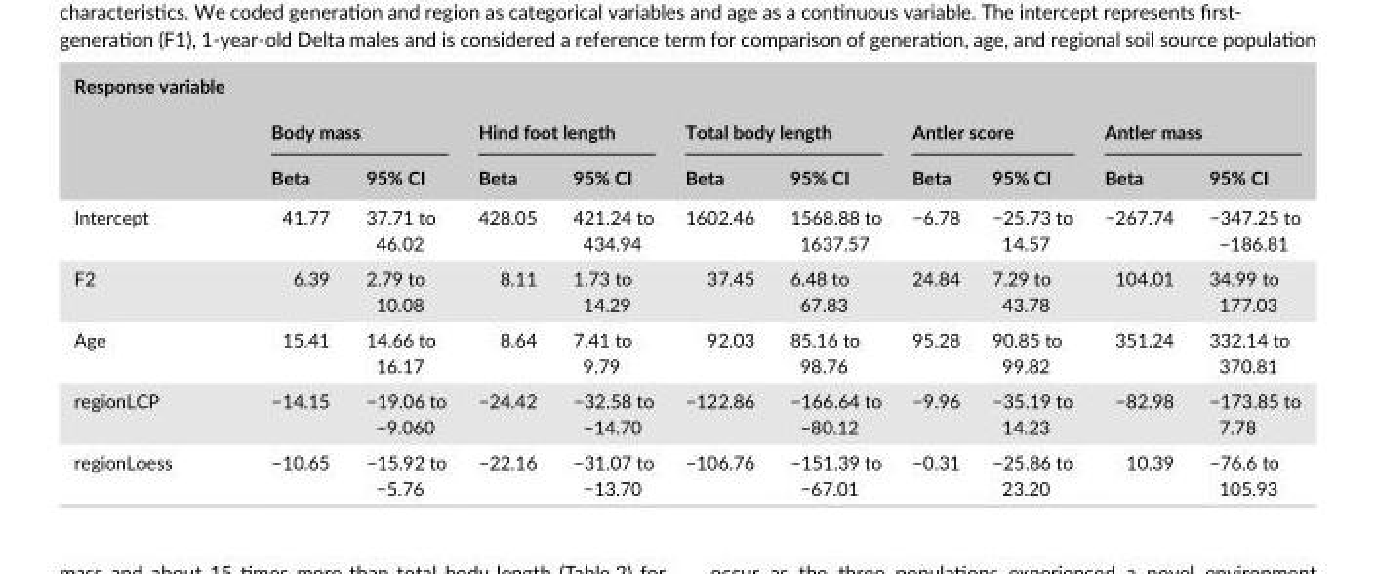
<table><thead><tr><td colspan="11">Response variable</td></tr><tr><td rowspan="2"></td><td colspan="2">Body mass</td><td colspan="2">Hind foot length</td><td colspan="2">Total body length</td><td colspan="2">Antler score</td><td colspan="2">Antler mass</td></tr><tr><td>Beta</td><td>95% CI</td><td>Beta</td><td>95% CI</td><td>Beta</td><td>95% CI</td><td>Beta</td><td>95% CI</td><td>Beta</td><td>95% CI</td></tr></thead><tbody><tr><td>Intercept</td><td>41.77</td><td>37.71 to 46.02</td><td>428.05</td><td>421.24 to 434.94</td><td>1602.46</td><td>1568.88 to 1637.57</td><td>−6.78</td><td>−25.73 to 14.57</td><td>−267.74</td><td>−347.25 to −186.81</td></tr><tr><td>F2</td><td>6.39</td><td>2.79 to 10.08</td><td>8.11</td><td>1.73 to 14.29</td><td>37.45</td><td>6.48 to 67.83</td><td>24.84</td><td>7.29 to 43.78</td><td>104.01</td><td>34.99 to 177.03</td></tr><tr><td>Age</td><td>15.41</td><td>14.66 to 16.17</td><td>8.64</td><td>7.41 to 9.79</td><td>92.03</td><td>85.16 to 98.76</td><td>95.28</td><td>90.85 to 99.82</td><td>351.24</td><td>332.14 to 370.81</td></tr><tr><td>regionLCP</td><td>−14.15</td><td>−19.06 to −9.060</td><td>−24.42</td><td>−32.58 to −14.70</td><td>−122.86</td><td>−166.64 to −80.12</td><td>−9.96</td><td>−35.19 to 14.23</td><td>−82.98</td><td>−173.85 to 7.78</td></tr><tr><td>regionLoess</td><td>−10.65</td><td>−15.92 to −5.76</td><td>−22.16</td><td>−31.07 to −13.70</td><td>−106.76</td><td>−151.39 to −67.01</td><td>−0.31</td><td>−25.86 to 23.20</td><td>10.39</td><td>−76.6 to 105.93</td></tr></tbody></table>